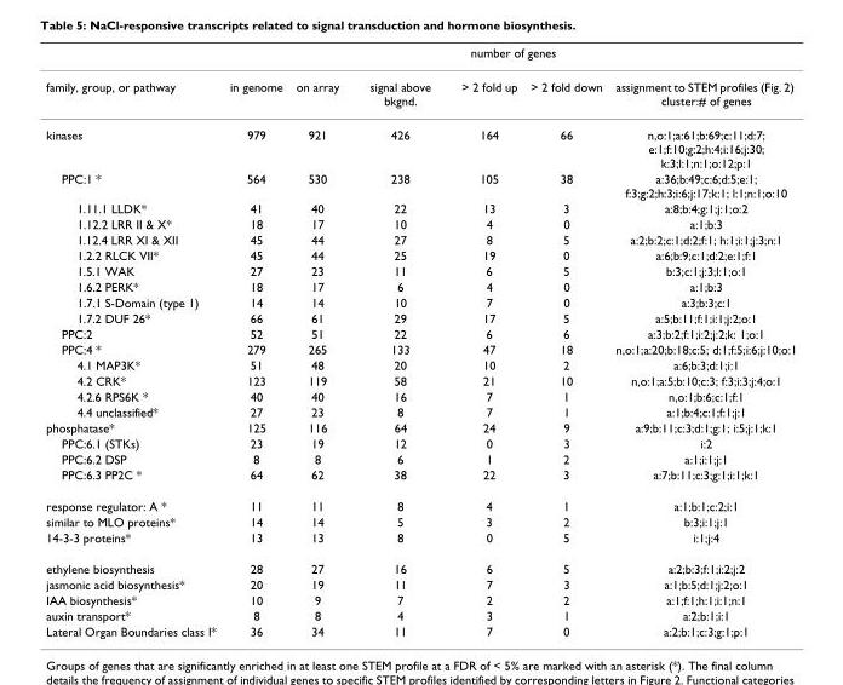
<table><thead><tr><td rowspan="2">family, group, or pathway</td><td colspan="6">number of genes</td></tr><tr><td>in genome</td><td>on array</td><td>signal above bkgnd.</td><td>&gt; 2 fold up</td><td>&gt; 2 fold down</td><td>assignment to STEM profiles (Fig. 2) cluster:# of genes</td></tr></thead><tbody><tr><td>kinases</td><td>979</td><td>921</td><td>426</td><td>164</td><td>66</td><td>n,o:1;a:61;b:69;c:11;d:7; e:1;f:10;g:2;h:4;i:16;j:30; k:3;l:1;n:1;o:12;p:1</td></tr><tr><td>PPC:1 *</td><td>564</td><td>530</td><td>238</td><td>105</td><td>38</td><td>a:36;b:49;c:6;d:5;e:1; f:3;g:2;h:3;i:6;j:17;k:1; l:1;n:1;o:10</td></tr><tr><td>1.11.1 LLDK*</td><td>41</td><td>40</td><td>22</td><td>13</td><td>3</td><td>a:8;b:4;g:1;j:1;o:2</td></tr><tr><td>1.12.2 LRR II &amp; X*</td><td>18</td><td>17</td><td>10</td><td>4</td><td>0</td><td>a:1;b:3</td></tr><tr><td>1.12.4 LRR XI &amp; XII</td><td>45</td><td>44</td><td>27</td><td>8</td><td>5</td><td>a:2;b:2;c:1;d:2;f:1; h:1;i:1;j:3;n:1</td></tr><tr><td>1.2.2 RLCK VII*</td><td>45</td><td>44</td><td>25</td><td>19</td><td>0</td><td>a:6;b:9;c:1;d:2;e:1;f:1</td></tr><tr><td>1.5.1 WAK</td><td>27</td><td>23</td><td>11</td><td>6</td><td>5</td><td>b:3;c:1;j:3;l:1;o:1</td></tr><tr><td>1.6.2 PERK*</td><td>18</td><td>17</td><td>6</td><td>4</td><td>0</td><td>a:1;b:3</td></tr><tr><td>1.7.1 S-Domain (type 1)</td><td>14</td><td>14</td><td>10</td><td>7</td><td>0</td><td>a:3;b:3;c:1</td></tr><tr><td>1.7.2 DUF 26*</td><td>66</td><td>61</td><td>29</td><td>17</td><td>5</td><td>a:5;b:11;f:1;i:1;j:2;o:1</td></tr><tr><td>PPC:2</td><td>52</td><td>51</td><td>22</td><td>6</td><td>6</td><td>a:3;b:2;f:1;i:2;j:2;k: 1;o:1</td></tr><tr><td>PPC:4 *</td><td>279</td><td>265</td><td>133</td><td>47</td><td>18</td><td>n,o:1;a:20;b:18;c:5; d:1;f:5;i:6;j:10;o:1</td></tr><tr><td>4.1 MAP3K*</td><td>51</td><td>48</td><td>20</td><td>10</td><td>2</td><td>a:6;b:3;d:1;i:1</td></tr><tr><td>4.2 CRK*</td><td>123</td><td>119</td><td>58</td><td>21</td><td>10</td><td>n,o:1;a:5;b:10;c:3; f:3;i:3;j:4;o:1</td></tr><tr><td>4.2.6 RPS6K *</td><td>40</td><td>40</td><td>16</td><td>7</td><td>1</td><td>n,o:1;b:6;c:1;f:1</td></tr><tr><td>4.4 unclassified*</td><td>27</td><td>23</td><td>8</td><td>7</td><td>1</td><td>a:1;b:4;c:1;f:1;j:1</td></tr><tr><td>phosphatase*</td><td>125</td><td>116</td><td>64</td><td>24</td><td>9</td><td>a:9;b:11;c:3;d:1;g:1; i:5;j:1;k:1</td></tr><tr><td>PPC:6.1 (STKs)</td><td>23</td><td>19</td><td>12</td><td>0</td><td>3</td><td>i:2</td></tr><tr><td>PPC:6.2 DSP</td><td>8</td><td>8</td><td>6</td><td>1</td><td>2</td><td>a:1;i:1;j:1</td></tr><tr><td>PPC:6.3 PP2C *</td><td>64</td><td>62</td><td>38</td><td>22</td><td>3</td><td>a:7;b:11;c:3;g:1;i:1;k:1</td></tr><tr><td>response regulator: A *</td><td>11</td><td>11</td><td>8</td><td>4</td><td>1</td><td>a:1;b:1;c:2;i:1</td></tr><tr><td>similar to MLO proteins*</td><td>14</td><td>14</td><td>5</td><td>3</td><td>2</td><td>b:3;i:1;j:1</td></tr><tr><td>14-3-3 proteins*</td><td>13</td><td>13</td><td>8</td><td>0</td><td>5</td><td>i:1;j:4</td></tr><tr><td>ethylene biosynthesis</td><td>28</td><td>27</td><td>16</td><td>6</td><td>5</td><td>a:2;b:3;f:1;i:2;j:2</td></tr><tr><td>jasmonic acid biosynthesis*</td><td>20</td><td>19</td><td>11</td><td>7</td><td>3</td><td>a:1;b:5;d:1;j:2;o:1</td></tr><tr><td>IAA biosynthesis*</td><td>10</td><td>9</td><td>7</td><td>2</td><td>2</td><td>a:1;f:1;h:1;i:1;n:1</td></tr><tr><td>auxin transport*</td><td>8</td><td>8</td><td>4</td><td>3</td><td>1</td><td>a:2;b:1;i:1</td></tr><tr><td>Lateral Organ Boundaries class I*</td><td>36</td><td>34</td><td>11</td><td>7</td><td>0</td><td>a:2;b:1;c:3;g:1;p:1</td></tr></tbody></table>